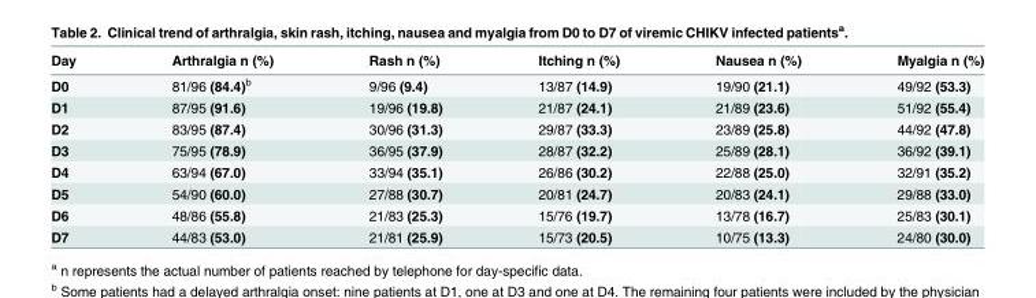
<table><thead><tr><td>Day</td><td>Arthralgia n (%)</td><td>Rash n (%)</td><td>Itching n (%)</td><td>Nausea n (%)</td><td>Myalgia n (%)</td></tr></thead><tbody><tr><td>D0</td><td>81/96 (84.4)<sup>b</sup></td><td>9/96 (9.4)</td><td>13/87 (14.9)</td><td>19/90 (21.1)</td><td>49/92 (53.3)</td></tr><tr><td>D1</td><td>87/95 (91.6)</td><td>19/96 (19.8)</td><td>21/87 (24.1)</td><td>21/89 (23.6)</td><td>51/92 (55.4)</td></tr><tr><td>D2</td><td>83/95 (87.4)</td><td>30/96 (31.3)</td><td>29/87 (33.3)</td><td>23/89 (25.8)</td><td>44/92 (47.8)</td></tr><tr><td>D3</td><td>75/95 (78.9)</td><td>36/95 (37.9)</td><td>28/87 (32.2)</td><td>25/89 (28.1)</td><td>36/92 (39.1)</td></tr><tr><td>D4</td><td>63/94 (67.0)</td><td>33/94 (35.1)</td><td>26/86 (30.2)</td><td>22/88 (25.0)</td><td>32/91 (35.2)</td></tr><tr><td>D5</td><td>54/90 (60.0)</td><td>27/88 (30.7)</td><td>20/81 (24.7)</td><td>20/83 (24.1)</td><td>29/88 (33.0)</td></tr><tr><td>D6</td><td>48/86 (55.8)</td><td>21/83 (25.3)</td><td>15/76 (19.7)</td><td>13/78 (16.7)</td><td>25/83 (30.1)</td></tr><tr><td>D7</td><td>44/83 (53.0)</td><td>21/81 (25.9)</td><td>15/73 (20.5)</td><td>10/75 (13.3)</td><td>24/80 (30.0)</td></tr></tbody></table>